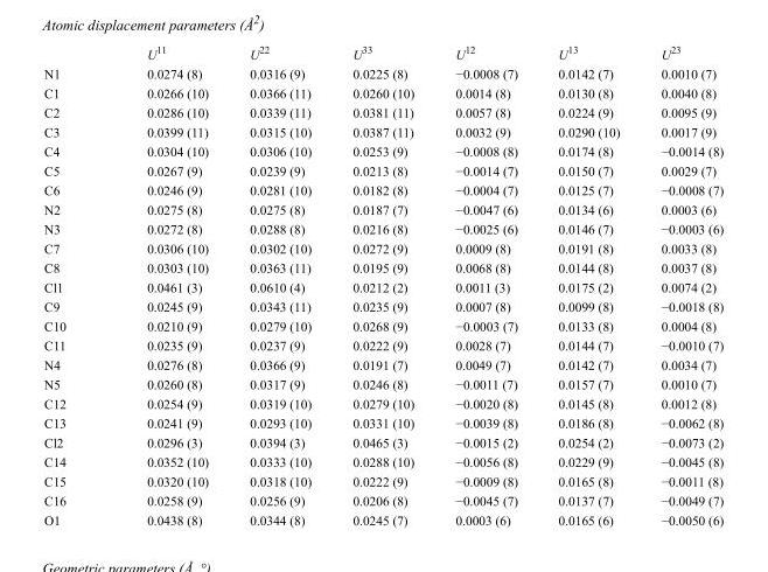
<table><thead><tr><td></td><td>U<sup>11</sup></td><td>U<sup>22</sup></td><td>U<sup>33</sup></td><td>U<sup>12</sup></td><td>U<sup>13</sup></td><td>U<sup>23</sup></td></tr></thead><tbody><tr><td>N1</td><td>0.0274 (8)</td><td>0.0316 (9)</td><td>0.0225 (8)</td><td>−0.0008 (7)</td><td>0.0142 (7)</td><td>0.0010 (7)</td></tr><tr><td>C1</td><td>0.0266 (10)</td><td>0.0366 (11)</td><td>0.0260 (10)</td><td>0.0014 (8)</td><td>0.0130 (8)</td><td>0.0040 (8)</td></tr><tr><td>C2</td><td>0.0286 (10)</td><td>0.0339 (11)</td><td>0.0381 (11)</td><td>0.0057 (8)</td><td>0.0224 (9)</td><td>0.0095 (9)</td></tr><tr><td>C3</td><td>0.0399 (11)</td><td>0.0315 (10)</td><td>0.0387 (11)</td><td>0.0032 (9)</td><td>0.0290 (10)</td><td>0.0017 (9)</td></tr><tr><td>C4</td><td>0.0304 (10)</td><td>0.0306 (10)</td><td>0.0253 (9)</td><td>−0.0008 (8)</td><td>0.0174 (8)</td><td>−0.0014 (8)</td></tr><tr><td>C5</td><td>0.0267 (9)</td><td>0.0239 (9)</td><td>0.0213 (8)</td><td>−0.0014 (7)</td><td>0.0150 (7)</td><td>0.0029 (7)</td></tr><tr><td>C6</td><td>0.0246 (9)</td><td>0.0281 (10)</td><td>0.0182 (8)</td><td>−0.0004 (7)</td><td>0.0125 (7)</td><td>−0.0008 (7)</td></tr><tr><td>N2</td><td>0.0275 (8)</td><td>0.0275 (8)</td><td>0.0187 (7)</td><td>−0.0047 (6)</td><td>0.0134 (6)</td><td>0.0003 (6)</td></tr><tr><td>N3</td><td>0.0272 (8)</td><td>0.0288 (8)</td><td>0.0216 (8)</td><td>−0.0025 (6)</td><td>0.0146 (7)</td><td>−0.0003 (6)</td></tr><tr><td>C7</td><td>0.0306 (10)</td><td>0.0302 (10)</td><td>0.0272 (9)</td><td>0.0009 (8)</td><td>0.0191 (8)</td><td>0.0033 (8)</td></tr><tr><td>C8</td><td>0.0303 (10)</td><td>0.0363 (11)</td><td>0.0195 (9)</td><td>0.0068 (8)</td><td>0.0144 (8)</td><td>0.0037 (8)</td></tr><tr><td>Cl1</td><td>0.0461 (3)</td><td>0.0610 (4)</td><td>0.0212 (2)</td><td>0.0011 (3)</td><td>0.0175 (2)</td><td>0.0074 (2)</td></tr><tr><td>C9</td><td>0.0245 (9)</td><td>0.0343 (11)</td><td>0.0235 (9)</td><td>0.0007 (8)</td><td>0.0099 (8)</td><td>−0.0018 (8)</td></tr><tr><td>C10</td><td>0.0210 (9)</td><td>0.0279 (10)</td><td>0.0268 (9)</td><td>−0.0003 (7)</td><td>0.0133 (8)</td><td>0.0004 (8)</td></tr><tr><td>C11</td><td>0.0235 (9)</td><td>0.0237 (9)</td><td>0.0222 (9)</td><td>0.0028 (7)</td><td>0.0144 (7)</td><td>−0.0010 (7)</td></tr><tr><td>N4</td><td>0.0276 (8)</td><td>0.0366 (9)</td><td>0.0191 (7)</td><td>0.0049 (7)</td><td>0.0142 (7)</td><td>0.0034 (7)</td></tr><tr><td>N5</td><td>0.0260 (8)</td><td>0.0317 (9)</td><td>0.0246 (8)</td><td>−0.0011 (7)</td><td>0.0157 (7)</td><td>0.0010 (7)</td></tr><tr><td>C12</td><td>0.0254 (9)</td><td>0.0319 (10)</td><td>0.0279 (10)</td><td>−0.0020 (8)</td><td>0.0145 (8)</td><td>0.0012 (8)</td></tr><tr><td>C13</td><td>0.0241 (9)</td><td>0.0293 (10)</td><td>0.0331 (10)</td><td>−0.0039 (8)</td><td>0.0186 (8)</td><td>−0.0062 (8)</td></tr><tr><td>Cl2</td><td>0.0296 (3)</td><td>0.0394 (3)</td><td>0.0465 (3)</td><td>−0.0015 (2)</td><td>0.0254 (2)</td><td>−0.0073 (2)</td></tr><tr><td>C14</td><td>0.0352 (10)</td><td>0.0333 (10)</td><td>0.0288 (10)</td><td>−0.0056 (8)</td><td>0.0229 (9)</td><td>−0.0045 (8)</td></tr><tr><td>C15</td><td>0.0320 (10)</td><td>0.0318 (10)</td><td>0.0222 (9)</td><td>−0.0009 (8)</td><td>0.0165 (8)</td><td>−0.0011 (8)</td></tr><tr><td>C16</td><td>0.0258 (9)</td><td>0.0256 (9)</td><td>0.0206 (8)</td><td>−0.0045 (7)</td><td>0.0137 (7)</td><td>−0.0049 (7)</td></tr><tr><td>O1</td><td>0.0438 (8)</td><td>0.0344 (8)</td><td>0.0245 (7)</td><td>0.0003 (6)</td><td>0.0165 (6)</td><td>−0.0050 (6)</td></tr></tbody></table>